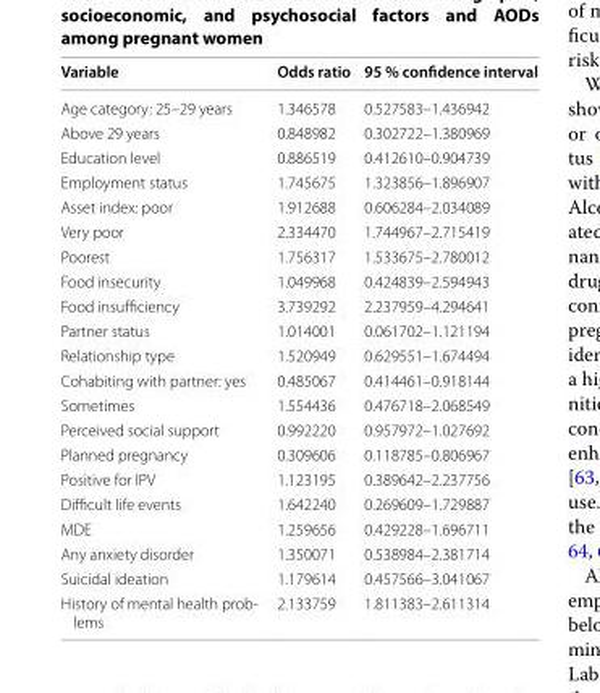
<table><thead><tr><td>Variable</td><td>Odds ratio</td><td>95 % confidence interval</td></tr></thead><tbody><tr><td>Age category: 25–29 years</td><td>1.346578</td><td>0.527583–1.436942</td></tr><tr><td>Above 29 years</td><td>0.848982</td><td>0.302722–1.380969</td></tr><tr><td>Education level</td><td>0.886519</td><td>0.412610–0.904739</td></tr><tr><td>Employment status</td><td>1.745675</td><td>1.323856–1.896907</td></tr><tr><td>Asset index: poor</td><td>1.912688</td><td>0.606284–2.034089</td></tr><tr><td>Very poor</td><td>2.334470</td><td>1.744967–2.715419</td></tr><tr><td>Poorest</td><td>1.756317</td><td>1.533675–2.780012</td></tr><tr><td>Food insecurity</td><td>1.049968</td><td>0.424839–2.594943</td></tr><tr><td>Food insufficiency</td><td>3.739292</td><td>2.237959–4.294641</td></tr><tr><td>Partner status</td><td>1.014001</td><td>0.061702–1.121194</td></tr><tr><td>Relationship type</td><td>1.520949</td><td>0.629551–1.674494</td></tr><tr><td>Cohabiting with partner: yes</td><td>0.485067</td><td>0.414461–0.918144</td></tr><tr><td>Sometimes</td><td>1.554436</td><td>0.476718–2.068549</td></tr><tr><td>Perceived social support</td><td>0.992220</td><td>0.957972–1.027692</td></tr><tr><td>Planned pregnancy</td><td>0.309606</td><td>0.118785–0.806967</td></tr><tr><td>Positive for IPV</td><td>1.123195</td><td>0.389642–2.237756</td></tr><tr><td>Difficult life events</td><td>1.642240</td><td>0.269609–1.729887</td></tr><tr><td>MDE</td><td>1.259656</td><td>0.429228–1.696711</td></tr><tr><td>Any anxiety disorder</td><td>1.350071</td><td>0.538984–2.381714</td></tr><tr><td>Suicidal ideation</td><td>1.179614</td><td>0.457566–3.041067</td></tr><tr><td>History of mental health prob- lems</td><td>2.133759</td><td>1.811383–2.611314</td></tr></tbody></table>